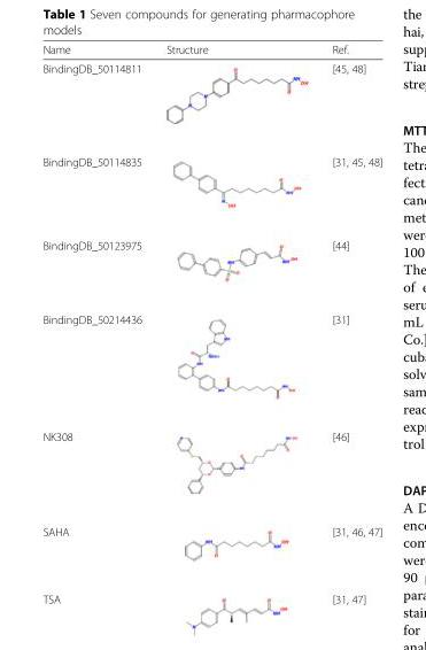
<table><thead><tr><td>Name</td><td>Structure</td><td>Ref.</td></tr></thead><tbody><tr><td>BindingDB_50114811</td><td></td><td>[45, 48]</td></tr><tr><td>BindingDB_50114835</td><td></td><td>[31, 45, 48]</td></tr><tr><td>BindingDB_50123975</td><td></td><td>[44]</td></tr><tr><td>BindingDB_50214436</td><td></td><td>[31]</td></tr><tr><td>NK308</td><td></td><td>[46]</td></tr><tr><td>SAHA</td><td></td><td>[31, 46, 47]</td></tr><tr><td>TSA</td><td></td><td>[31, 47]</td></tr></tbody></table>